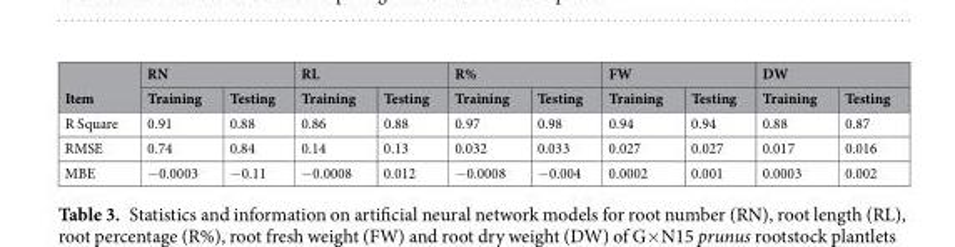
<table><thead><tr><td rowspan="2">Item</td><td colspan="2">RN</td><td colspan="2">RL</td><td colspan="2">R%</td><td colspan="2">FW</td><td colspan="2">DW</td></tr><tr><td>Training</td><td>Testing</td><td>Training</td><td>Testing</td><td>Training</td><td>Testing</td><td>Training</td><td>Testing</td><td>Training</td><td>Testing</td></tr></thead><tbody><tr><td>R Square</td><td>0.91</td><td>0.88</td><td>0.86</td><td>0.88</td><td>0.97</td><td>0.98</td><td>0.94</td><td>0.94</td><td>0.88</td><td>0.87</td></tr><tr><td>RMSE</td><td>0.74</td><td>0.84</td><td>0.14</td><td>0.13</td><td>0.032</td><td>0.033</td><td>0.027</td><td>0.027</td><td>0.017</td><td>0.016</td></tr><tr><td>MBE</td><td>−0.0003</td><td>−0.11</td><td>−0.0008</td><td>0.012</td><td>−0.0008</td><td>−0.004</td><td>0.0002</td><td>0.001</td><td>0.0003</td><td>0.002</td></tr></tbody></table>